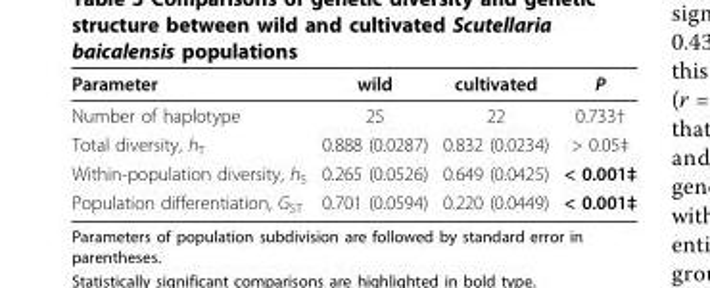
<table><thead><tr><td>Parameter</td><td>wild</td><td>cultivated</td><td>P</td></tr></thead><tbody><tr><td>Number of haplotype</td><td>25</td><td>22</td><td>0.733†</td></tr><tr><td>Total diversity, h<sub>T</sub></td><td>0.888 (0.0287)</td><td>0.832 (0.0234)</td><td>&gt; 0.05‡</td></tr><tr><td>Within-population diversity, h<sub>S</sub></td><td>0.265 (0.0526)</td><td>0.649 (0.0425)</td><td>&lt; 0.001‡</td></tr><tr><td>Population differentiation, G<sub>ST</sub></td><td>0.701 (0.0594)</td><td>0.220 (0.0449)</td><td>&lt; 0.001‡</td></tr></tbody></table>